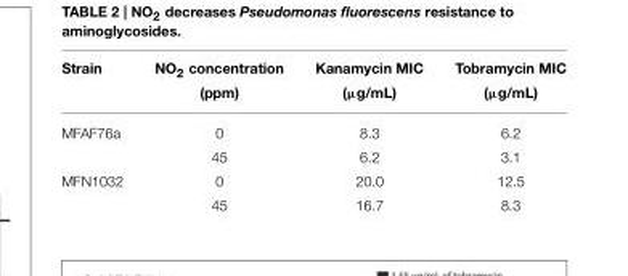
<table><thead><tr><td rowspan="2">Strain</td><td rowspan="2">NO<sub>2</sub> concentration (ppm)</td><td rowspan="2">Kanamycin MIC (µg/mL)</td><td rowspan="2">Tobramycin MIC (µg/mL)</td></tr><tr></tr></thead><tbody><tr><td rowspan="2">MFAF76a</td><td>0</td><td>8.3</td><td>6.2</td></tr><tr><td>45</td><td>6.2</td><td>3.1</td></tr><tr><td rowspan="2">MFN1032</td><td>0</td><td>20.0</td><td>12.5</td></tr><tr><td>45</td><td>16.7</td><td>8.3</td></tr></tbody></table>